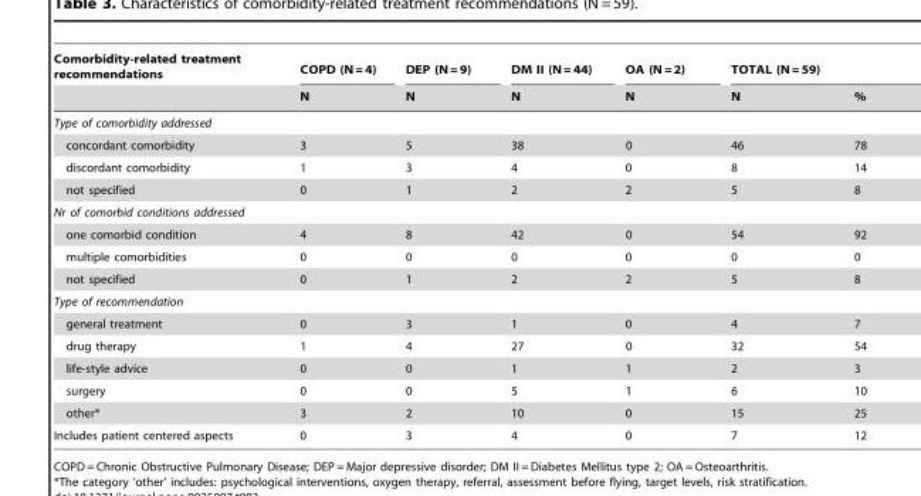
<table><thead><tr><td rowspan="2">Comorbidity-related treatment recommendations</td><td rowspan="2">COPD (N = 4) N</td><td rowspan="2">DEP (N = 9) N</td><td rowspan="2">DM II (N = 44) N</td><td rowspan="2">OA (N = 2) N</td><td colspan="2">TOTAL (N = 59)</td></tr><tr><td>N</td><td>%</td></tr></thead><tbody><tr><td colspan="7">Type of comorbidity addressed</td></tr><tr><td>concordant comorbidity</td><td>3</td><td>5</td><td>38</td><td>0</td><td>46</td><td>78</td></tr><tr><td>discordant comorbidity</td><td>1</td><td>3</td><td>4</td><td>0</td><td>8</td><td>14</td></tr><tr><td>not specified</td><td>0</td><td>1</td><td>2</td><td>2</td><td>5</td><td>8</td></tr><tr><td colspan="7">Nr of comorbid conditions addressed</td></tr><tr><td>one comorbid condition</td><td>4</td><td>8</td><td>42</td><td>0</td><td>54</td><td>92</td></tr><tr><td>multiple comorbidities</td><td>0</td><td>0</td><td>0</td><td>0</td><td>0</td><td>0</td></tr><tr><td>not specified</td><td>0</td><td>1</td><td>2</td><td>2</td><td>5</td><td>8</td></tr><tr><td colspan="7">Type of recommendation</td></tr><tr><td>general treatment</td><td>0</td><td>3</td><td>1</td><td>0</td><td>4</td><td>7</td></tr><tr><td>drug therapy</td><td>1</td><td>4</td><td>27</td><td>0</td><td>32</td><td>54</td></tr><tr><td>life-style advice</td><td>0</td><td>0</td><td>1</td><td>1</td><td>2</td><td>3</td></tr><tr><td>surgery</td><td>0</td><td>0</td><td>5</td><td>1</td><td>6</td><td>10</td></tr><tr><td>other*</td><td>3</td><td>2</td><td>10</td><td>0</td><td>15</td><td>25</td></tr><tr><td>Includes patient centered aspects</td><td>0</td><td>3</td><td>4</td><td>0</td><td>7</td><td>12</td></tr></tbody></table>